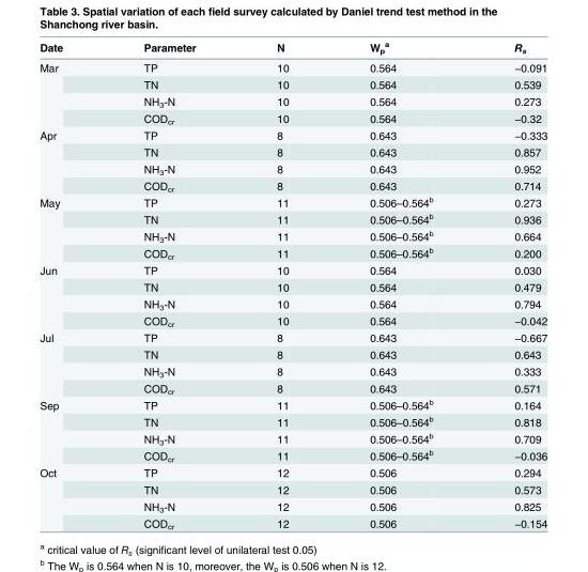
<table><thead><tr><td>Date</td><td>Parameter</td><td>N</td><td>W<sub>p</sub> <sup>a</sup></td><td>R<sub>s</sub></td></tr></thead><tbody><tr><td rowspan="4">Mar</td><td>TP</td><td>10</td><td>0.564</td><td>−0.091</td></tr><tr><td>TN</td><td>10</td><td>0.564</td><td>0.539</td></tr><tr><td>NH<sub>3</sub>-N</td><td>10</td><td>0.564</td><td>0.273</td></tr><tr><td>COD<sub>cr</sub></td><td>10</td><td>0.564</td><td>−0.32</td></tr><tr><td rowspan="4">Apr</td><td>TP</td><td>8</td><td>0.643</td><td>−0.333</td></tr><tr><td>TN</td><td>8</td><td>0.643</td><td>0.857</td></tr><tr><td>NH<sub>3</sub>-N</td><td>8</td><td>0.643</td><td>0.952</td></tr><tr><td>COD<sub>cr</sub></td><td>8</td><td>0.643</td><td>0.714</td></tr><tr><td rowspan="4">May</td><td>TP</td><td>11</td><td>0.506–0.564<sup>b</sup></td><td>0.273</td></tr><tr><td>TN</td><td>11</td><td>0.506–0.564<sup>b</sup></td><td>0.936</td></tr><tr><td>NH<sub>3</sub>-N</td><td>11</td><td>0.506–0.564<sup>b</sup></td><td>0.664</td></tr><tr><td>COD<sub>cr</sub></td><td>11</td><td>0.506–0.564<sup>b</sup></td><td>0.200</td></tr><tr><td rowspan="4">Jun</td><td>TP</td><td>10</td><td>0.564</td><td>0.030</td></tr><tr><td>TN</td><td>10</td><td>0.564</td><td>0.479</td></tr><tr><td>NH<sub>3</sub>-N</td><td>10</td><td>0.564</td><td>0.794</td></tr><tr><td>COD<sub>cr</sub></td><td>10</td><td>0.564</td><td>−0.042</td></tr><tr><td rowspan="4">Jul</td><td>TP</td><td>8</td><td>0.643</td><td>−0.667</td></tr><tr><td>TN</td><td>8</td><td>0.643</td><td>0.643</td></tr><tr><td>NH<sub>3</sub>-N</td><td>8</td><td>0.643</td><td>0.333</td></tr><tr><td>COD<sub>cr</sub></td><td>8</td><td>0.643</td><td>0.571</td></tr><tr><td rowspan="4">Sep</td><td>TP</td><td>11</td><td>0.506–0.564<sup>b</sup></td><td>0.164</td></tr><tr><td>TN</td><td>11</td><td>0.506–0.564<sup>b</sup></td><td>0.818</td></tr><tr><td>NH<sub>3</sub>-N</td><td>11</td><td>0.506–0.564<sup>b</sup></td><td>0.709</td></tr><tr><td>COD<sub>cr</sub></td><td>11</td><td>0.506–0.564<sup>b</sup></td><td>−0.036</td></tr><tr><td rowspan="4">Oct</td><td>TP</td><td>12</td><td>0.506</td><td>0.294</td></tr><tr><td>TN</td><td>12</td><td>0.506</td><td>0.573</td></tr><tr><td>NH<sub>3</sub>-N</td><td>12</td><td>0.506</td><td>0.825</td></tr><tr><td>COD<sub>cr</sub></td><td>12</td><td>0.506</td><td>−0.154</td></tr></tbody></table>